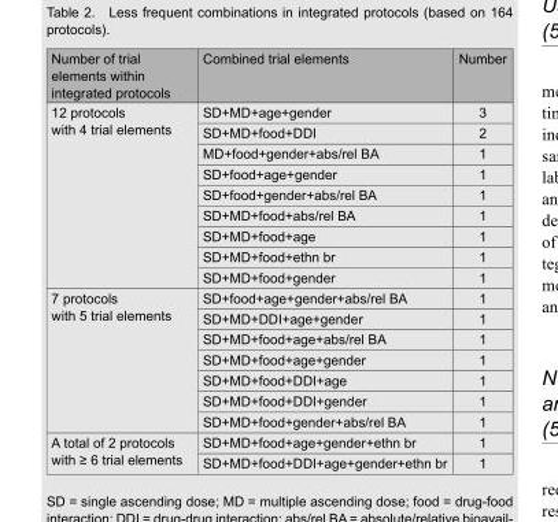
<table><thead><tr><td>Number of trial elements within integrated protocols</td><td>Combined trial elements</td><td>Number</td></tr></thead><tbody><tr><td rowspan="9">12 protocols with 4 trial elements</td><td>SD+MD+age+gender</td><td>3</td></tr><tr><td>SD+MD+food+DDI</td><td>2</td></tr><tr><td>MD+food+gender+abs/rel BA</td><td>1</td></tr><tr><td>SD+food+age+gender</td><td>1</td></tr><tr><td>SD+food+gender+abs/rel BA</td><td>1</td></tr><tr><td>SD+MD+food+abs/rel BA</td><td>1</td></tr><tr><td>SD+MD+food+age</td><td>1</td></tr><tr><td>SD+MD+food+ethn br</td><td>1</td></tr><tr><td>SD+MD+food+gender</td><td>1</td></tr><tr><td rowspan="7">7 protocols with 5 trial elements</td><td>SD+food+age+gender+abs/rel BA</td><td>1</td></tr><tr><td>SD+MD+DDI+age+gender</td><td>1</td></tr><tr><td>SD+MD+food+age+abs/rel BA</td><td>1</td></tr><tr><td>SD+MD+food+age+gender</td><td>1</td></tr><tr><td>SD+MD+food+DDI+age</td><td>1</td></tr><tr><td>SD+MD+food+DDI+gender</td><td>1</td></tr><tr><td>SD+MD+food+gender+abs/rel BA</td><td>1</td></tr><tr><td rowspan="2">A total of 2 protocols with ≥ 6 trial elements</td><td>SD+MD+food+age+gender+ethn br</td><td>1</td></tr><tr><td>SD+MD+food+DDI+age+gender+ethn br</td><td>1</td></tr></tbody></table>